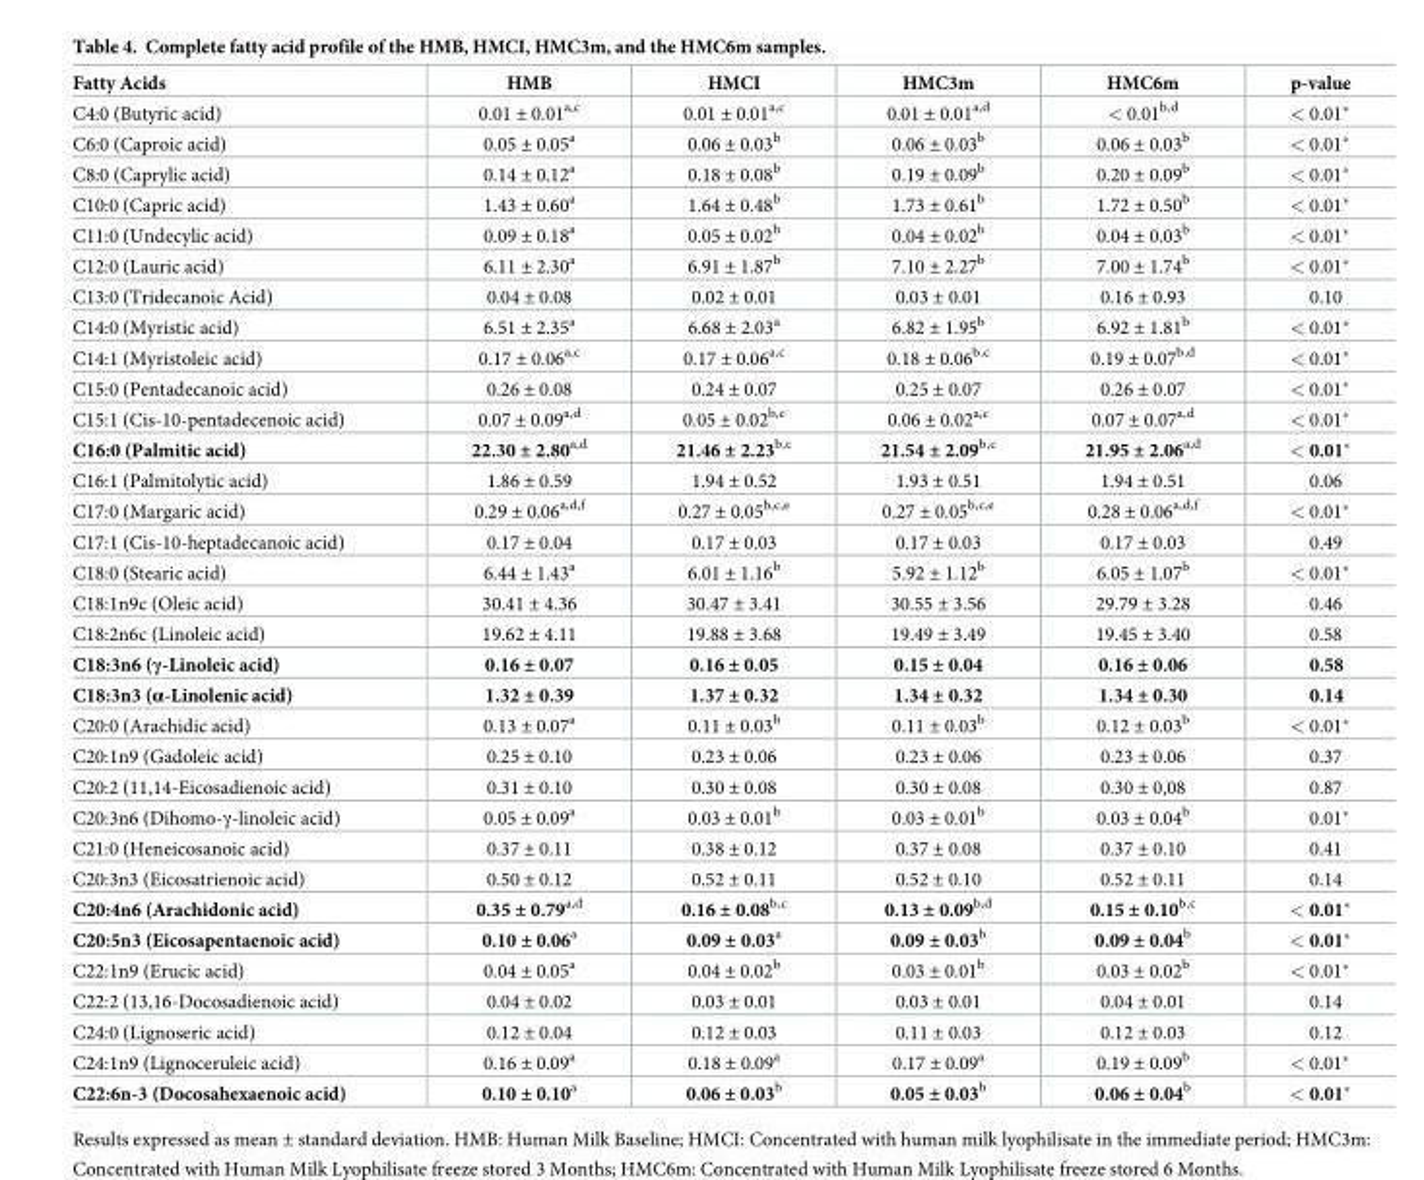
<table><thead><tr><td>Fatty Acids</td><td>HMB</td><td>HMCI</td><td>HMC3m</td><td>HMC6m</td><td>p-value</td></tr></thead><tbody><tr><td>C4:0 (Butyric acid)</td><td>0.01 ± 0.01<sup>a,c</sup></td><td>0.01 ± 0.01<sup>a,c</sup></td><td>0.01 ± 0.01<sup>a,d</sup></td><td>&lt; 0.01<sup>b,d</sup></td><td>&lt; 0.01*</td></tr><tr><td>C6:0 (Caproic acid)</td><td>0.05 ± 0.05<sup>a</sup></td><td>0.06 ± 0.03<sup>b</sup></td><td>0.06 ± 0.03<sup>b</sup></td><td>0.06 ± 0.03<sup>b</sup></td><td>&lt; 0.01*</td></tr><tr><td>C8:0 (Caprylic acid)</td><td>0.14 ± 0.12<sup>a</sup></td><td>0.18 ± 0.08<sup>b</sup></td><td>0.19 ± 0.09<sup>b</sup></td><td>0.20 ± 0.09<sup>b</sup></td><td>&lt; 0.01*</td></tr><tr><td>C10:0 (Capric acid)</td><td>1.43 ± 0.60<sup>a</sup></td><td>1.64 ± 0.48<sup>b</sup></td><td>1.73 ± 0.61<sup>b</sup></td><td>1.72 ± 0.50<sup>b</sup></td><td>&lt; 0.01*</td></tr><tr><td>C11:0 (Undecylic acid)</td><td>0.09 ± 0.18<sup>a</sup></td><td>0.05 ± 0.02<sup>b</sup></td><td>0.04 ± 0.02<sup>b</sup></td><td>0.04 ± 0.03<sup>b</sup></td><td>&lt; 0.01*</td></tr><tr><td>C12:0 (Lauric acid)</td><td>6.11 ± 2.30<sup>a</sup></td><td>6.91 ± 1.87<sup>b</sup></td><td>7.10 ± 2.27<sup>b</sup></td><td>7.00 ± 1.74<sup>b</sup></td><td>&lt; 0.01*</td></tr><tr><td>C13:0 (Tridecanoic Acid)</td><td>0.04 ± 0.08</td><td>0.02 ± 0.01</td><td>0.03 ± 0.01</td><td>0.16 ± 0.93</td><td>0.10</td></tr><tr><td>C14:0 (Myristic acid)</td><td>6.51 ± 2.35<sup>a</sup></td><td>6.68 ± 2.03<sup>a</sup></td><td>6.82 ± 1.95<sup>b</sup></td><td>6.92 ± 1.81<sup>b</sup></td><td>&lt; 0.01*</td></tr><tr><td>C14:1 (Myristoleic acid)</td><td>0.17 ± 0.06<sup>a,c</sup></td><td>0.17 ± 0.06<sup>a,c</sup></td><td>0.18 ± 0.06<sup>b,c</sup></td><td>0.19 ± 0.07<sup>b,d</sup></td><td>&lt; 0.01*</td></tr><tr><td>C15:0 (Pentadecanoic acid)</td><td>0.26 ± 0.08</td><td>0.24 ± 0.07</td><td>0.25 ± 0.07</td><td>0.26 ± 0.07</td><td>&lt; 0.01*</td></tr><tr><td>C15:1 (Cis-10-pentadecenoic acid)</td><td>0.07 ± 0.09<sup>a,d</sup></td><td>0.05 ± 0.02<sup>b,c</sup></td><td>0.06 ± 0.02<sup>a,c</sup></td><td>0.07 ± 0.07<sup>a,d</sup></td><td>&lt; 0.01*</td></tr><tr><td>C16:0 (Palmitic acid)</td><td>22.30 ± 2.80<sup>a,d</sup></td><td>21.46 ± 2.23<sup>b,c</sup></td><td>21.54 ± 2.09<sup>b,c</sup></td><td>21.95 ± 2.06<sup>a,d</sup></td><td>&lt; 0.01*</td></tr><tr><td>C16:1 (Palmitolytic acid)</td><td>1.86 ± 0.59</td><td>1.94 ± 0.52</td><td>1.93 ± 0.51</td><td>1.94 ± 0.51</td><td>0.06</td></tr><tr><td>C17:0 (Margaric acid)</td><td>0.29 ± 0.06<sup>a,d,f</sup></td><td>0.27 ± 0.05<sup>b,c,e</sup></td><td>0.27 ± 0.05<sup>b,c,e</sup></td><td>0.28 ± 0.06<sup>a,d,f</sup></td><td>&lt; 0.01*</td></tr><tr><td>C17:1 (Cis-10-heptadecanoic acid)</td><td>0.17 ± 0.04</td><td>0.17 ± 0.03</td><td>0.17 ± 0.03</td><td>0.17 ± 0.03</td><td>0.49</td></tr><tr><td>C18:0 (Stearic acid)</td><td>6.44 ± 1.43<sup>a</sup></td><td>6.01 ± 1.16<sup>b</sup></td><td>5.92 ± 1.12<sup>b</sup></td><td>6.05 ± 1.07<sup>b</sup></td><td>&lt; 0.01*</td></tr><tr><td>C18:1n9c (Oleic acid)</td><td>30.41 ± 4.36</td><td>30.47 ± 3.41</td><td>30.55 ± 3.56</td><td>29.79 ± 3.28</td><td>0.46</td></tr><tr><td>C18:2n6c (Linoleic acid)</td><td>19.62 ± 4.11</td><td>19.88 ± 3.68</td><td>19.49 ± 3.49</td><td>19.45 ± 3.40</td><td>0.58</td></tr><tr><td>C18:3n6 (γ-Linoleic acid)</td><td>0.16 ± 0.07</td><td>0.16 ± 0.05</td><td>0.15 ± 0.04</td><td>0.16 ± 0.06</td><td>0.58</td></tr><tr><td>C18:3n3 (α-Linolenic acid)</td><td>1.32 ± 0.39</td><td>1.37 ± 0.32</td><td>1.34 ± 0.32</td><td>1.34 ± 0.30</td><td>0.14</td></tr><tr><td>C20:0 (Arachidic acid)</td><td>0.13 ± 0.07<sup>a</sup></td><td>0.11 ± 0.03<sup>b</sup></td><td>0.11 ± 0.03<sup>b</sup></td><td>0.12 ± 0.03<sup>b</sup></td><td>&lt; 0.01*</td></tr><tr><td>C20:1n9 (Gadoleic acid)</td><td>0.25 ± 0.10</td><td>0.23 ± 0.06</td><td>0.23 ± 0.06</td><td>0.23 ± 0.06</td><td>0.37</td></tr><tr><td>C20:2 (11,14-Eicosadienoic acid)</td><td>0.31 ± 0.10</td><td>0.30 ± 0.08</td><td>0.30 ± 0.08</td><td>0.30 ± 0,08</td><td>0.87</td></tr><tr><td>C20:3n6 (Dihomo-γ-linoleic acid)</td><td>0.05 ± 0.09<sup>a</sup></td><td>0.03 ± 0.01<sup>b</sup></td><td>0.03 ± 0.01<sup>b</sup></td><td>0.03 ± 0.04<sup>b</sup></td><td>0.01*</td></tr><tr><td>C21:0 (Heneicosanoic acid)</td><td>0.37 ± 0.11</td><td>0.38 ± 0.12</td><td>0.37 ± 0.08</td><td>0.37 ± 0.10</td><td>0.41</td></tr><tr><td>C20:3n3 (Eicosatrienoic acid)</td><td>0.50 ± 0.12</td><td>0.52 ± 0.11</td><td>0.52 ± 0.10</td><td>0.52 ± 0.11</td><td>0.14</td></tr><tr><td>C20:4n6 (Arachidonic acid)</td><td>0.35 ± 0.79<sup>a,d</sup></td><td>0.16 ± 0.08<sup>b,c</sup></td><td>0.13 ± 0.09<sup>b,d</sup></td><td>0.15 ± 0.10<sup>b,c</sup></td><td>&lt; 0.01*</td></tr><tr><td>C20:5n3 (Eicosapentaenoic acid)</td><td>0.10 ± 0.06<sup>a</sup></td><td>0.09 ± 0.03<sup>a</sup></td><td>0.09 ± 0.03<sup>b</sup></td><td>0.09 ± 0.04<sup>b</sup></td><td>&lt; 0.01*</td></tr><tr><td>C22:1n9 (Erucic acid)</td><td>0.04 ± 0.05<sup>a</sup></td><td>0.04 ± 0.02<sup>b</sup></td><td>0.03 ± 0.01<sup>b</sup></td><td>0.03 ± 0.02<sup>b</sup></td><td>&lt; 0.01*</td></tr><tr><td>C22:2 (13,16-Docosadienoic acid)</td><td>0.04 ± 0.02</td><td>0.03 ± 0.01</td><td>0.03 ± 0.01</td><td>0.04 ± 0.01</td><td>0.14</td></tr><tr><td>C24:0 (Lignoseric acid)</td><td>0.12 ± 0.04</td><td>0.12 ± 0.03</td><td>0.11 ± 0.03</td><td>0.12 ± 0.03</td><td>0.12</td></tr><tr><td>C24:1n9 (Lignoceruleic acid)</td><td>0.16 ± 0.09<sup>a</sup></td><td>0.18 ± 0.09<sup>a</sup></td><td>0.17 ± 0.09<sup>a</sup></td><td>0.19 ± 0.09<sup>b</sup></td><td>&lt; 0.01*</td></tr><tr><td>C22:6n-3 (Docosahexaenoic acid)</td><td>0.10 ± 0.10<sup>a</sup></td><td>0.06 ± 0.03<sup>b</sup></td><td>0.05 ± 0.03<sup>b</sup></td><td>0.06 ± 0.04<sup>b</sup></td><td>&lt; 0.01*</td></tr></tbody></table>